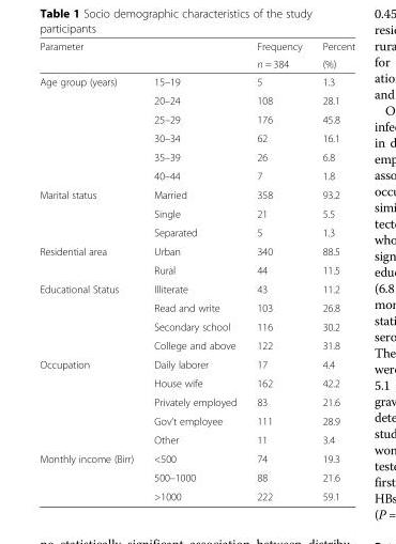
<table><thead><tr><td rowspan="2">Parameter</td><td rowspan="2"></td><td rowspan="2">Frequency n = 384</td><td rowspan="2">Percent (%)</td></tr><tr></tr></thead><tbody><tr><td rowspan="6">Age group (years)</td><td>15–19</td><td>5</td><td>1.3</td></tr><tr><td>20–24</td><td>108</td><td>28.1</td></tr><tr><td>25–29</td><td>176</td><td>45.8</td></tr><tr><td>30–34</td><td>62</td><td>16.1</td></tr><tr><td>35–39</td><td>26</td><td>6.8</td></tr><tr><td>40–44</td><td>7</td><td>1.8</td></tr><tr><td rowspan="3">Marital status</td><td>Married</td><td>358</td><td>93.2</td></tr><tr><td>Single</td><td>21</td><td>5.5</td></tr><tr><td>Separated</td><td>5</td><td>1.3</td></tr><tr><td rowspan="2">Residential area</td><td>Urban</td><td>340</td><td>88.5</td></tr><tr><td>Rural</td><td>44</td><td>11.5</td></tr><tr><td rowspan="4">Educational Status</td><td>Illiterate</td><td>43</td><td>11.2</td></tr><tr><td>Read and write</td><td>103</td><td>26.8</td></tr><tr><td>Secondary school</td><td>116</td><td>30.2</td></tr><tr><td>College and above</td><td>122</td><td>31.8</td></tr><tr><td rowspan="5">Occupation</td><td>Daily laborer</td><td>17</td><td>4.4</td></tr><tr><td>House wife</td><td>162</td><td>42.2</td></tr><tr><td>Privately employed</td><td>83</td><td>21.6</td></tr><tr><td>Gov’t employee</td><td>111</td><td>28.9</td></tr><tr><td>Other</td><td>11</td><td>3.4</td></tr><tr><td rowspan="3">Monthly income (Birr)</td><td>&lt;500</td><td>74</td><td>19.3</td></tr><tr><td>500–1000</td><td>88</td><td>21.6</td></tr><tr><td>&gt;1000</td><td>222</td><td>59.1</td></tr></tbody></table>